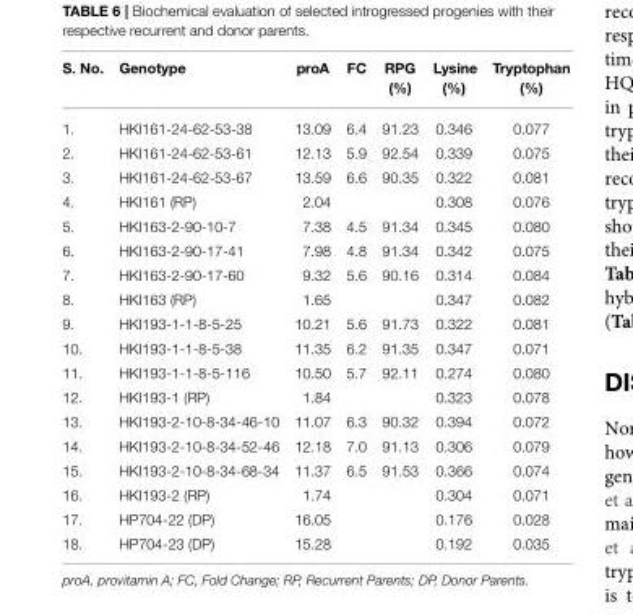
<table><thead><tr><td>S. No.</td><td>Genotype</td><td>proA</td><td>FC</td><td>RPG (%)</td><td>Lysine (%)</td><td>Tryptophan (%)</td></tr></thead><tbody><tr><td>1.</td><td>HKI161-24-62-53-38</td><td>13.09</td><td>6.4</td><td>91.23</td><td>0.346</td><td>0.077</td></tr><tr><td>2.</td><td>HKI161-24-62-53-61</td><td>12.13</td><td>5.9</td><td>92.54</td><td>0.339</td><td>0.075</td></tr><tr><td>3.</td><td>HKI161-24-62-53-67</td><td>13.59</td><td>6.6</td><td>90.35</td><td>0.322</td><td>0.081</td></tr><tr><td>4.</td><td>HKI161 (RP)</td><td>2.04</td><td></td><td></td><td>0.308</td><td>0.076</td></tr><tr><td>5.</td><td>HKI163-2-90-10-7</td><td>7.38</td><td>4.5</td><td>91.34</td><td>0.345</td><td>0.080</td></tr><tr><td>6.</td><td>HKI163-2-90-17-41</td><td>7.98</td><td>4.8</td><td>91.34</td><td>0.342</td><td>0.075</td></tr><tr><td>7.</td><td>HKI163-2-90-17-60</td><td>9.32</td><td>5.6</td><td>90.16</td><td>0.314</td><td>0.084</td></tr><tr><td>8.</td><td>HKI163 (RP)</td><td>1.65</td><td></td><td></td><td>0.347</td><td>0.082</td></tr><tr><td>9.</td><td>HKI193-1-1-8-5-25</td><td>10.21</td><td>5.6</td><td>91.73</td><td>0.322</td><td>0.081</td></tr><tr><td>10.</td><td>HKI193-1-1-8-5-38</td><td>11.35</td><td>6.2</td><td>91.35</td><td>0.347</td><td>0.071</td></tr><tr><td>11.</td><td>HKI193-1-1-8-5-116</td><td>10.50</td><td>5.7</td><td>92.11</td><td>0.274</td><td>0.080</td></tr><tr><td>12.</td><td>HKI193-1 (RP)</td><td>1.84</td><td></td><td></td><td>0.323</td><td>0.078</td></tr><tr><td>13.</td><td>HKI193-2-10-8-34-46-10</td><td>11.07</td><td>6.3</td><td>90.32</td><td>0.394</td><td>0.072</td></tr><tr><td>14.</td><td>HKI193-2-10-8-34-52-46</td><td>12.18</td><td>7.0</td><td>91.13</td><td>0.306</td><td>0.079</td></tr><tr><td>15.</td><td>HKI193-2-10-8-34-68-34</td><td>11.37</td><td>6.5</td><td>91.53</td><td>0.366</td><td>0.074</td></tr><tr><td>16.</td><td>HKI193-2 (RP)</td><td>1.74</td><td></td><td></td><td>0.304</td><td>0.071</td></tr><tr><td>17.</td><td>HP704-22 (DP)</td><td>16.05</td><td></td><td></td><td>0.176</td><td>0.028</td></tr><tr><td>18.</td><td>HP704-23 (DP)</td><td>15.28</td><td></td><td></td><td>0.192</td><td>0.035</td></tr></tbody></table>